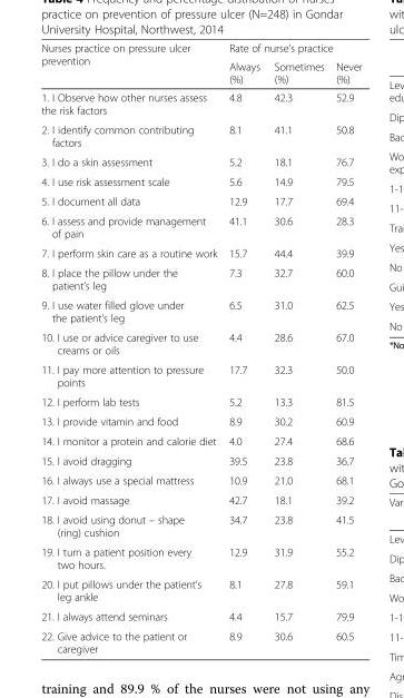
<table><thead><tr><td rowspan="2">Nurses practice on pressure ulcer prevention</td><td colspan="3">Rate of nurse’s practice</td></tr><tr><td>Always (%)</td><td>Sometimes (%)</td><td>Never (%)</td></tr></thead><tbody><tr><td>1. I Observe how other nurses assess the risk factors</td><td>4.8</td><td>42.3</td><td>52.9</td></tr><tr><td>2. I identify common contributing factors</td><td>8.1</td><td>41.1</td><td>50.8</td></tr><tr><td>3. I do a skin assessment</td><td>5.2</td><td>18.1</td><td>76.7</td></tr><tr><td>4. I use risk assessment scale</td><td>5.6</td><td>14.9</td><td>79.5</td></tr><tr><td>5. I document all data</td><td>12.9</td><td>17.7</td><td>69.4</td></tr><tr><td>6. I assess and provide management of pain</td><td>41.1</td><td>30.6</td><td>28.3</td></tr><tr><td>7. I perform skin care as a routine work</td><td>15.7</td><td>44.4</td><td>39.9</td></tr><tr><td>8. I place the pillow under the patient’s leg</td><td>7.3</td><td>32.7</td><td>60.0</td></tr><tr><td>9. I use water filled glove under the patient’s leg</td><td>6.5</td><td>31.0</td><td>62.5</td></tr><tr><td>10. I use or advice caregiver to use creams or oils</td><td>4.4</td><td>28.6</td><td>67.0</td></tr><tr><td>11. I pay more attention to pressure points</td><td>17.7</td><td>32.3</td><td>50.0</td></tr><tr><td>12. I perform lab tests</td><td>5.2</td><td>13.3</td><td>81.5</td></tr><tr><td>13. I provide vitamin and food</td><td>8.9</td><td>30.2</td><td>60.9</td></tr><tr><td>14. I monitor a protein and calorie diet</td><td>4.0</td><td>27.4</td><td>68.6</td></tr><tr><td>15. I avoid dragging</td><td>39.5</td><td>23.8</td><td>36.7</td></tr><tr><td>16. I always use a special mattress</td><td>10.9</td><td>21.0</td><td>68.1</td></tr><tr><td>17. I avoid massage</td><td>42.7</td><td>18.1</td><td>39.2</td></tr><tr><td>18. I avoid using donut – shape (ring) cushion</td><td>34.7</td><td>23.8</td><td>41.5</td></tr><tr><td>19. I turn a patient position every two hours.</td><td>12.9</td><td>31.9</td><td>55.2</td></tr><tr><td>20. I put pillows under the patient’s leg ankle</td><td>8.1</td><td>27.8</td><td>59.1</td></tr><tr><td>21. I always attend seminars</td><td>4.4</td><td>15.7</td><td>79.9</td></tr><tr><td>22. Give advice to the patient or caregiver</td><td>8.9</td><td>30.6</td><td>60.5</td></tr></tbody></table>